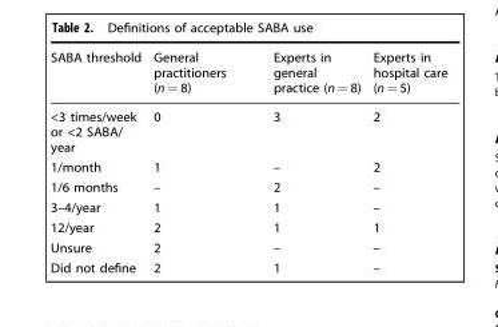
<table><thead><tr><td>SABA threshold</td><td>General practitioners (n = 8)</td><td>Experts in general practice (n = 8)</td><td>Experts in hospital care (n = 5)</td></tr></thead><tbody><tr><td>&lt;3 times/week or &lt;2 SABA/ year</td><td>0</td><td>3</td><td>2</td></tr><tr><td>1/month</td><td>1</td><td>–</td><td>2</td></tr><tr><td>1/6 months</td><td>–</td><td>2</td><td>–</td></tr><tr><td>3–4/year</td><td>1</td><td>1</td><td>–</td></tr><tr><td>12/year</td><td>2</td><td>1</td><td>1</td></tr><tr><td>Unsure</td><td>2</td><td>–</td><td>–</td></tr><tr><td>Did not define</td><td>2</td><td>1</td><td>–</td></tr></tbody></table>